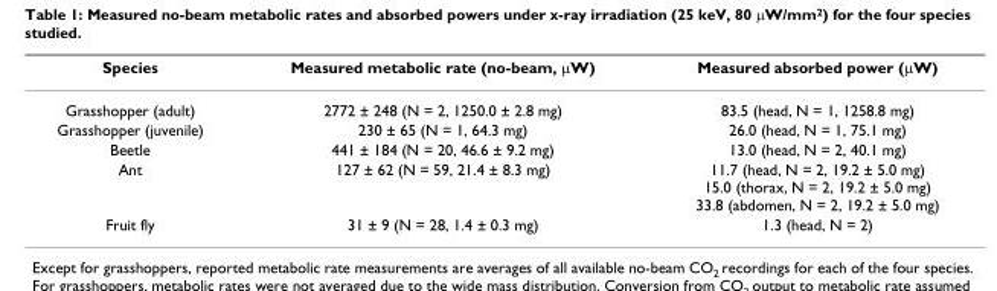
<table><thead><tr><td>Species</td><td>Measured metabolic rate (no-beam, μW)</td><td>Measured absorbed power (μW)</td></tr></thead><tbody><tr><td>Grasshopper (adult)</td><td>2772 ± 248 (N = 2, 1250.0 ± 2.8 mg)</td><td>83.5 (head, N = 1, 1258.8 mg)</td></tr><tr><td>Grasshopper (juvenile)</td><td>230 ± 65 (N = 1, 64.3 mg)</td><td>26.0 (head, N = 1, 75.1 mg)</td></tr><tr><td>Beetle</td><td>441 ± 184 (N = 20, 46.6 ± 9.2 mg)</td><td>13.0 (head, N = 2, 40.1 mg)</td></tr><tr><td>Ant</td><td>127 ± 62 (N = 59, 21.4 ± 8.3 mg)</td><td>11.7 (head, N = 2, 19.2 ± 5.0 mg) 15.0 (thorax, N = 2, 19.2 ± 5.0 mg) 33.8 (abdomen, N = 2, 19.2 ± 5.0 mg)</td></tr><tr><td>Fruit fly</td><td>31 ± 9 (N = 28, 1.4 ± 0.3 mg)</td><td>1.3 (head, N = 2)</td></tr></tbody></table>